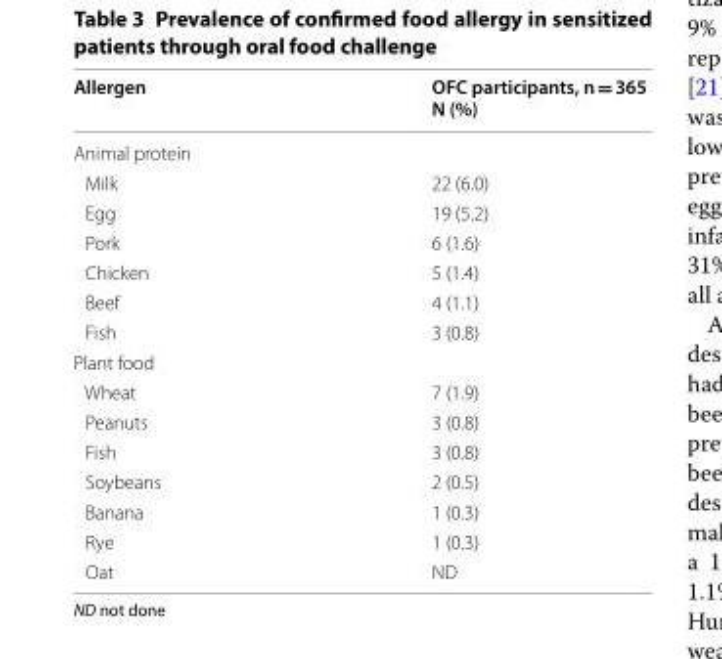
<table><thead><tr><td>Allergen</td><td>OFC participants, n = 365 N (%)</td></tr></thead><tbody><tr><td colspan="2">Animal protein</td></tr><tr><td>Milk</td><td>22 (6.0)</td></tr><tr><td>Egg</td><td>19 (5.2)</td></tr><tr><td>Pork</td><td>6 (1.6)</td></tr><tr><td>Chicken</td><td>5 (1.4)</td></tr><tr><td>Beef</td><td>4 (1.1)</td></tr><tr><td>Fish</td><td>3 (0.8)</td></tr><tr><td colspan="2">Plant food</td></tr><tr><td>Wheat</td><td>7 (1.9)</td></tr><tr><td>Peanuts</td><td>3 (0.8)</td></tr><tr><td>Fish</td><td>3 (0.8)</td></tr><tr><td>Soybeans</td><td>2 (0.5)</td></tr><tr><td>Banana</td><td>1 (0.3)</td></tr><tr><td>Rye</td><td>1 (0.3)</td></tr><tr><td>Oat</td><td>ND</td></tr></tbody></table>